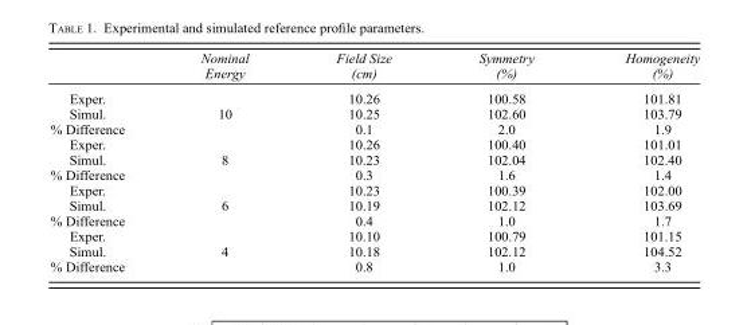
<table><thead><tr><td></td><td>Nominal Energy</td><td>Field Size (cm)</td><td>Symmetry (%)</td><td>Homogeneity (%)</td></tr></thead><tbody><tr><td>Exper.</td><td></td><td>10.26</td><td>100.58</td><td>101.81</td></tr><tr><td>Simul.</td><td>10</td><td>10.25</td><td>102.60</td><td>103.79</td></tr><tr><td>% Difference</td><td></td><td>0.1</td><td>2.0</td><td>1.9</td></tr><tr><td>Exper.</td><td></td><td>10.26</td><td>100.40</td><td>101.01</td></tr><tr><td>Simul.</td><td>8</td><td>10.23</td><td>102.04</td><td>102.40</td></tr><tr><td>% Difference</td><td></td><td>0.3</td><td>1.6</td><td>1.4</td></tr><tr><td>Exper.</td><td></td><td>10.23</td><td>100.39</td><td>102.00</td></tr><tr><td>Simul.</td><td>6</td><td>10.19</td><td>102.12</td><td>103.69</td></tr><tr><td>% Difference</td><td></td><td>0.4</td><td>1.0</td><td>1.7</td></tr><tr><td>Exper.</td><td></td><td>10.10</td><td>100.79</td><td>101.15</td></tr><tr><td>Simul.</td><td>4</td><td>10.18</td><td>102.12</td><td>104.52</td></tr><tr><td>% Difference</td><td></td><td>0.8</td><td>1.0</td><td>3.3</td></tr></tbody></table>